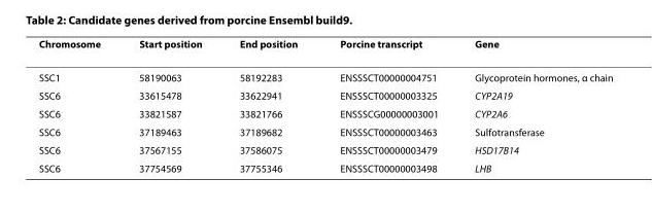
<table><thead><tr><td>Chromosome</td><td>Start position</td><td>End position</td><td>Porcine transcript</td><td>Gene</td></tr></thead><tbody><tr><td>SSC1</td><td>58190063</td><td>58192283</td><td>ENSSSCT00000004751</td><td>Glycoprotein hormones, α chain</td></tr><tr><td>SSC6</td><td>33615478</td><td>33622941</td><td>ENSSSCT00000003325</td><td>CYP2A19</td></tr><tr><td>SSC6</td><td>33821587</td><td>33821766</td><td>ENSSSCG00000003001</td><td>CYP2A6</td></tr><tr><td>SSC6</td><td>37189463</td><td>37189682</td><td>ENSSSCT00000003463</td><td>Sulfotransferase</td></tr><tr><td>SSC6</td><td>37567155</td><td>37586075</td><td>ENSSSCT00000003479</td><td>HSD17B14</td></tr><tr><td>SSC6</td><td>37754569</td><td>37755346</td><td>ENSSSCT00000003498</td><td>LHB</td></tr></tbody></table>